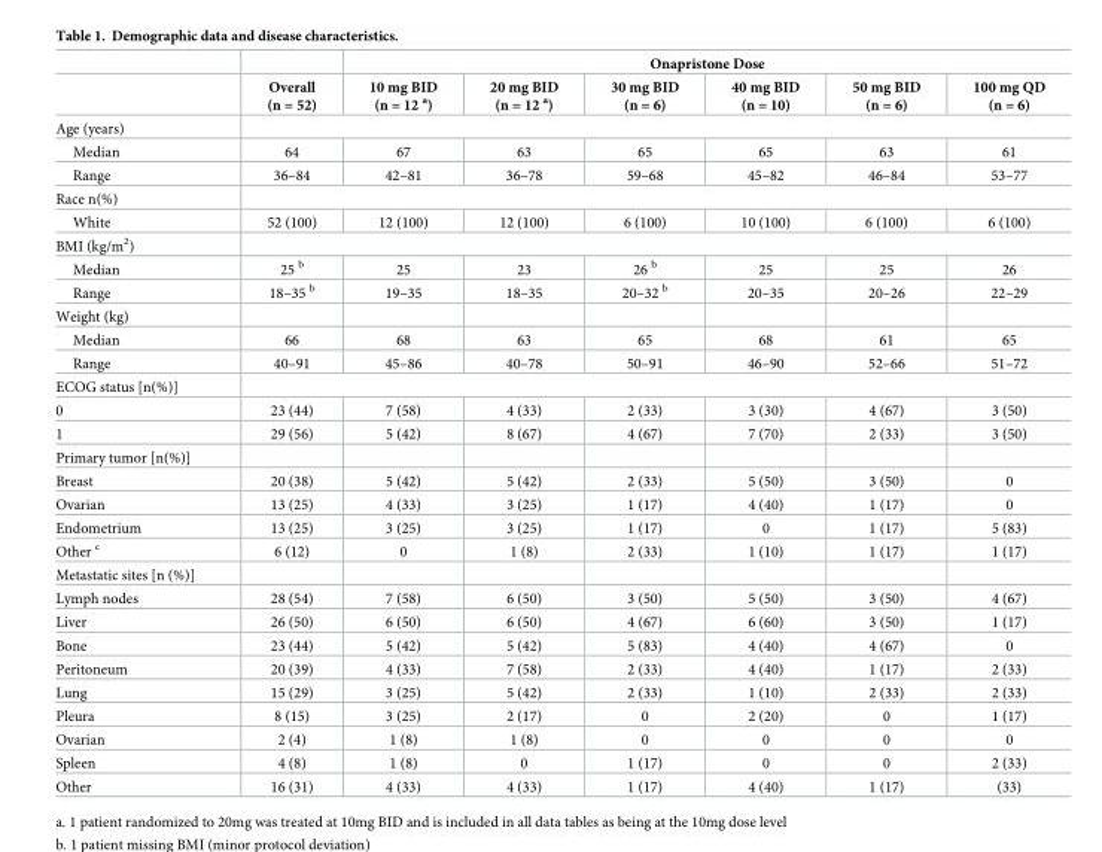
<table><thead><tr><td rowspan="2"></td><td rowspan="2">Overall (n = 52)</td><td colspan="6">Onapristone Dose</td></tr><tr><td>10 mg BID (n = 12 <sup>a</sup>)</td><td>20 mg BID (n = 12 <sup>a</sup>)</td><td>30 mg BID (n = 6)</td><td>40 mg BID (n = 10)</td><td>50 mg BID (n = 6)</td><td>100 mg QD (n = 6)</td></tr></thead><tbody><tr><td colspan="8">Age (years)</td></tr><tr><td>Median</td><td>64</td><td>67</td><td>63</td><td>65</td><td>65</td><td>63</td><td>61</td></tr><tr><td>Range</td><td>36–84</td><td>42–81</td><td>36–78</td><td>59–68</td><td>45–82</td><td>46–84</td><td>53–77</td></tr><tr><td colspan="8">Race n(%)</td></tr><tr><td>White</td><td>52 (100)</td><td>12 (100)</td><td>12 (100)</td><td>6 (100)</td><td>10 (100)</td><td>6 (100)</td><td>6 (100)</td></tr><tr><td colspan="8">BMI (kg/m<sup>2</sup>)</td></tr><tr><td>Median</td><td>25 <sup>b</sup></td><td>25</td><td>23</td><td>26 <sup>b</sup></td><td>25</td><td>25</td><td>26</td></tr><tr><td>Range</td><td>18–35 <sup>b</sup></td><td>19–35</td><td>18–35</td><td>20–32 <sup>b</sup></td><td>20–35</td><td>20–26</td><td>22–29</td></tr><tr><td colspan="8">Weight (kg)</td></tr><tr><td>Median</td><td>66</td><td>68</td><td>63</td><td>65</td><td>68</td><td>61</td><td>65</td></tr><tr><td>Range</td><td>40–91</td><td>45–86</td><td>40–78</td><td>50–91</td><td>46–90</td><td>52–66</td><td>51–72</td></tr><tr><td colspan="8">ECOG status [n(%)]</td></tr><tr><td>0</td><td>23 (44)</td><td>7 (58)</td><td>4 (33)</td><td>2 (33)</td><td>3 (30)</td><td>4 (67)</td><td>3 (50)</td></tr><tr><td>1</td><td>29 (56)</td><td>5 (42)</td><td>8 (67)</td><td>4 (67)</td><td>7 (70)</td><td>2 (33)</td><td>3 (50)</td></tr><tr><td colspan="8">Primary tumor [n(%)]</td></tr><tr><td>Breast</td><td>20 (38)</td><td>5 (42)</td><td>5 (42)</td><td>2 (33)</td><td>5 (50)</td><td>3 (50)</td><td>0</td></tr><tr><td>Ovarian</td><td>13 (25)</td><td>4 (33)</td><td>3 (25)</td><td>1 (17)</td><td>4 (40)</td><td>1 (17)</td><td>0</td></tr><tr><td>Endometrium</td><td>13 (25)</td><td>3 (25)</td><td>3 (25)</td><td>1 (17)</td><td>0</td><td>1 (17)</td><td>5 (83)</td></tr><tr><td>Other <sup>c</sup></td><td>6 (12)</td><td>0</td><td>1 (8)</td><td>2 (33)</td><td>1 (10)</td><td>1 (17)</td><td>1 (17)</td></tr><tr><td colspan="8">Metastatic sites [n (%)]</td></tr><tr><td>Lymph nodes</td><td>28 (54)</td><td>7 (58)</td><td>6 (50)</td><td>3 (50)</td><td>5 (50)</td><td>3 (50)</td><td>4 (67)</td></tr><tr><td>Liver</td><td>26 (50)</td><td>6 (50)</td><td>6 (50)</td><td>4 (67)</td><td>6 (60)</td><td>3 (50)</td><td>1 (17)</td></tr><tr><td>Bone</td><td>23 (44)</td><td>5 (42)</td><td>5 (42)</td><td>5 (83)</td><td>4 (40)</td><td>4 (67)</td><td>0</td></tr><tr><td>Peritoneum</td><td>20 (39)</td><td>4 (33)</td><td>7 (58)</td><td>2 (33)</td><td>4 (40)</td><td>1 (17)</td><td>2 (33)</td></tr><tr><td>Lung</td><td>15 (29)</td><td>3 (25)</td><td>5 (42)</td><td>2 (33)</td><td>1 (10)</td><td>2 (33)</td><td>2 (33)</td></tr><tr><td>Pleura</td><td>8 (15)</td><td>3 (25)</td><td>2 (17)</td><td>0</td><td>2 (20)</td><td>0</td><td>1 (17)</td></tr><tr><td>Ovarian</td><td>2 (4)</td><td>1 (8)</td><td>1 (8)</td><td>0</td><td>0</td><td>0</td><td>0</td></tr><tr><td>Spleen</td><td>4 (8)</td><td>1 (8)</td><td>0</td><td>1 (17)</td><td>0</td><td>0</td><td>2 (33)</td></tr><tr><td>Other</td><td>16 (31)</td><td>4 (33)</td><td>4 (33)</td><td>1 (17)</td><td>4 (40)</td><td>1 (17)</td><td>(33)</td></tr></tbody></table>